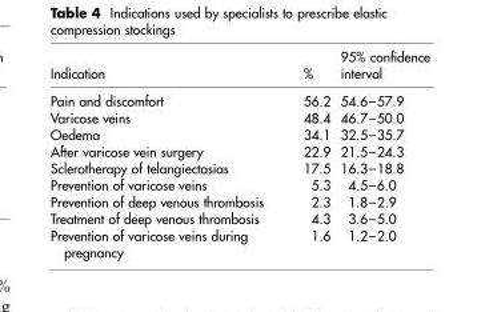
<table><thead><tr><td>Indication</td><td>%</td><td>95% confidence interval</td></tr></thead><tbody><tr><td>Pain and discomfort</td><td>56.2</td><td>54.6–57.9</td></tr><tr><td>Varicose veins</td><td>48.4</td><td>46.7–50.0</td></tr><tr><td>Oedema</td><td>34.1</td><td>32.5–35.7</td></tr><tr><td>After varicose vein surgery</td><td>22.9</td><td>21.5–24.3</td></tr><tr><td>Sclerotherapy of telangiectasias</td><td>17.5</td><td>16.3–18.8</td></tr><tr><td>Prevention of varicose veins</td><td>5.3</td><td>4.5–6.0</td></tr><tr><td>Prevention of deep venous thrombosis</td><td>2.3</td><td>1.8–2.9</td></tr><tr><td>Treatment of deep venous thrombosis</td><td>4.3</td><td>3.6–5.0</td></tr><tr><td>Prevention of varicose veins during pregnancy</td><td>1.6</td><td>1.2–2.0</td></tr></tbody></table>